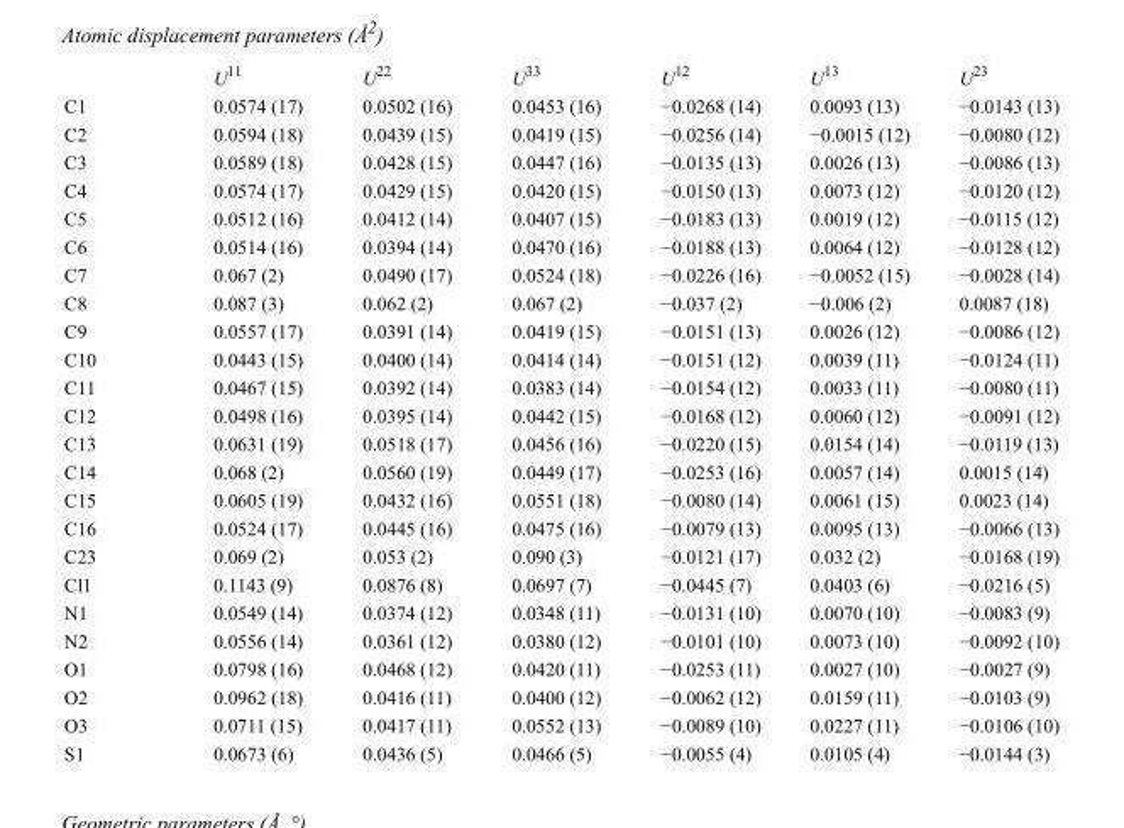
<table><thead><tr><td></td><td>U<sup>11</sup></td><td>U<sup>22</sup></td><td>U<sup>33</sup></td><td>U<sup>12</sup></td><td>U<sup>13</sup></td><td>U<sup>23</sup></td></tr></thead><tbody><tr><td>C1</td><td>0.0574 (17)</td><td>0.0502 (16)</td><td>0.0453 (16)</td><td>−0.0268 (14)</td><td>0.0093 (13)</td><td>−0.0143 (13)</td></tr><tr><td>C2</td><td>0.0594 (18)</td><td>0.0439 (15)</td><td>0.0419 (15)</td><td>−0.0256 (14)</td><td>−0.0015 (12)</td><td>−0.0080 (12)</td></tr><tr><td>C3</td><td>0.0589 (18)</td><td>0.0428 (15)</td><td>0.0447 (16)</td><td>−0.0135 (13)</td><td>0.0026 (13)</td><td>−0.0086 (13)</td></tr><tr><td>C4</td><td>0.0574 (17)</td><td>0.0429 (15)</td><td>0.0420 (15)</td><td>−0.0150 (13)</td><td>0.0073 (12)</td><td>−0.0120 (12)</td></tr><tr><td>C5</td><td>0.0512 (16)</td><td>0.0412 (14)</td><td>0.0407 (15)</td><td>−0.0183 (13)</td><td>0.0019 (12)</td><td>−0.0115 (12)</td></tr><tr><td>C6</td><td>0.0514 (16)</td><td>0.0394 (14)</td><td>0.0470 (16)</td><td>−0.0188 (13)</td><td>0.0064 (12)</td><td>−0.0128 (12)</td></tr><tr><td>C7</td><td>0.067 (2)</td><td>0.0490 (17)</td><td>0.0524 (18)</td><td>−0.0226 (16)</td><td>−0.0052 (15)</td><td>−0.0028 (14)</td></tr><tr><td>C8</td><td>0.087 (3)</td><td>0.062 (2)</td><td>0.067 (2)</td><td>−0.037 (2)</td><td>−0.006 (2)</td><td>0.0087 (18)</td></tr><tr><td>C9</td><td>0.0557 (17)</td><td>0.0391 (14)</td><td>0.0419 (15)</td><td>−0.0151 (13)</td><td>0.0026 (12)</td><td>−0.0086 (12)</td></tr><tr><td>C10</td><td>0.0443 (15)</td><td>0.0400 (14)</td><td>0.0414 (14)</td><td>−0.0151 (12)</td><td>0.0039 (11)</td><td>−0.0124 (11)</td></tr><tr><td>C11</td><td>0.0467 (15)</td><td>0.0392 (14)</td><td>0.0383 (14)</td><td>−0.0154 (12)</td><td>0.0033 (11)</td><td>−0.0080 (11)</td></tr><tr><td>C12</td><td>0.0498 (16)</td><td>0.0395 (14)</td><td>0.0442 (15)</td><td>−0.0168 (12)</td><td>0.0060 (12)</td><td>−0.0091 (12)</td></tr><tr><td>C13</td><td>0.0631 (19)</td><td>0.0518 (17)</td><td>0.0456 (16)</td><td>−0.0220 (15)</td><td>0.0154 (14)</td><td>−0.0119 (13)</td></tr><tr><td>C14</td><td>0.068 (2)</td><td>0.0560 (19)</td><td>0.0449 (17)</td><td>−0.0253 (16)</td><td>0.0057 (14)</td><td>0.0015 (14)</td></tr><tr><td>C15</td><td>0.0605 (19)</td><td>0.0432 (16)</td><td>0.0551 (18)</td><td>−0.0080 (14)</td><td>0.0061 (15)</td><td>0.0023 (14)</td></tr><tr><td>C16</td><td>0.0524 (17)</td><td>0.0445 (16)</td><td>0.0475 (16)</td><td>−0.0079 (13)</td><td>0.0095 (13)</td><td>−0.0066 (13)</td></tr><tr><td>C23</td><td>0.069 (2)</td><td>0.053 (2)</td><td>0.090 (3)</td><td>−0.0121 (17)</td><td>0.032 (2)</td><td>−0.0168 (19)</td></tr><tr><td>Cl1</td><td>0.1143 (9)</td><td>0.0876 (8)</td><td>0.0697 (7)</td><td>−0.0445 (7)</td><td>0.0403 (6)</td><td>−0.0216 (5)</td></tr><tr><td>N1</td><td>0.0549 (14)</td><td>0.0374 (12)</td><td>0.0348 (11)</td><td>−0.0131 (10)</td><td>0.0070 (10)</td><td>−0.0083 (9)</td></tr><tr><td>N2</td><td>0.0556 (14)</td><td>0.0361 (12)</td><td>0.0380 (12)</td><td>−0.0101 (10)</td><td>0.0073 (10)</td><td>−0.0092 (10)</td></tr><tr><td>O1</td><td>0.0798 (16)</td><td>0.0468 (12)</td><td>0.0420 (11)</td><td>−0.0253 (11)</td><td>0.0027 (10)</td><td>−0.0027 (9)</td></tr><tr><td>O2</td><td>0.0962 (18)</td><td>0.0416 (11)</td><td>0.0400 (12)</td><td>−0.0062 (12)</td><td>0.0159 (11)</td><td>−0.0103 (9)</td></tr><tr><td>O3</td><td>0.0711 (15)</td><td>0.0417 (11)</td><td>0.0552 (13)</td><td>−0.0089 (10)</td><td>0.0227 (11)</td><td>−0.0106 (10)</td></tr><tr><td>S1</td><td>0.0673 (6)</td><td>0.0436 (5)</td><td>0.0466 (5)</td><td>−0.0055 (4)</td><td>0.0105 (4)</td><td>−0.0144 (3)</td></tr></tbody></table>